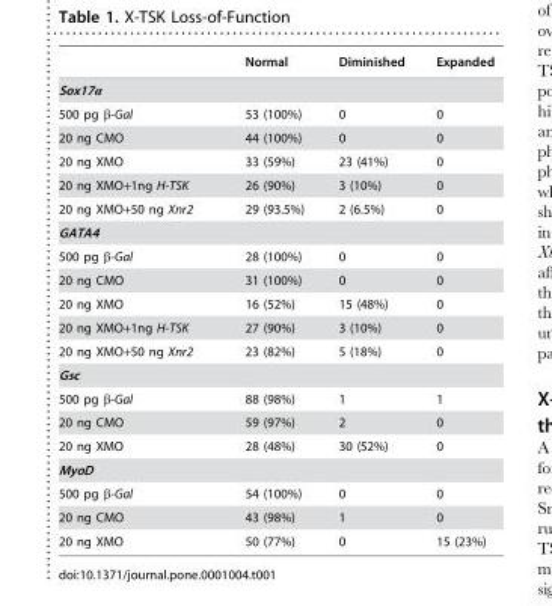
<table><thead><tr><td></td><td>Normal</td><td>Diminished</td><td>Expanded</td></tr></thead><tbody><tr><td colspan="4">Sox17α</td></tr><tr><td>500 pg β-Gal</td><td>53 (100%)</td><td>0</td><td>0</td></tr><tr><td>20 ng CMO</td><td>44 (100%)</td><td>0</td><td>0</td></tr><tr><td>20 ng XMO</td><td>33 (59%)</td><td>23 (41%)</td><td>0</td></tr><tr><td>20 ng XMO+1ng H-TSK</td><td>26 (90%)</td><td>3 (10%)</td><td>0</td></tr><tr><td>20 ng XMO+50 ng Xnr2</td><td>29 (93.5%)</td><td>2 (6.5%)</td><td>0</td></tr><tr><td colspan="4">GATA4</td></tr><tr><td>500 pg β-Gal</td><td>28 (100%)</td><td>0</td><td>0</td></tr><tr><td>20 ng CMO</td><td>31 (100%)</td><td>0</td><td>0</td></tr><tr><td>20 ng XMO</td><td>16 (52%)</td><td>15 (48%)</td><td>0</td></tr><tr><td>20 ng XMO+1ng H-TSK</td><td>27 (90%)</td><td>3 (10%)</td><td>0</td></tr><tr><td>20 ng XMO+50 ng Xnr2</td><td>23 (82%)</td><td>5 (18%)</td><td>0</td></tr><tr><td colspan="4">Gsc</td></tr><tr><td>500 pg β-Gal</td><td>88 (98%)</td><td>1</td><td>1</td></tr><tr><td>20 ng CMO</td><td>59 (97%)</td><td>2</td><td>0</td></tr><tr><td>20 ng XMO</td><td>28 (48%)</td><td>30 (52%)</td><td>0</td></tr><tr><td colspan="4">MyoD</td></tr><tr><td>500 pg β-Gal</td><td>54 (100%)</td><td>0</td><td>0</td></tr><tr><td>20 ng CMO</td><td>43 (98%)</td><td>1</td><td>0</td></tr><tr><td>20 ng XMO</td><td>50 (77%)</td><td>0</td><td>15 (23%)</td></tr></tbody></table>